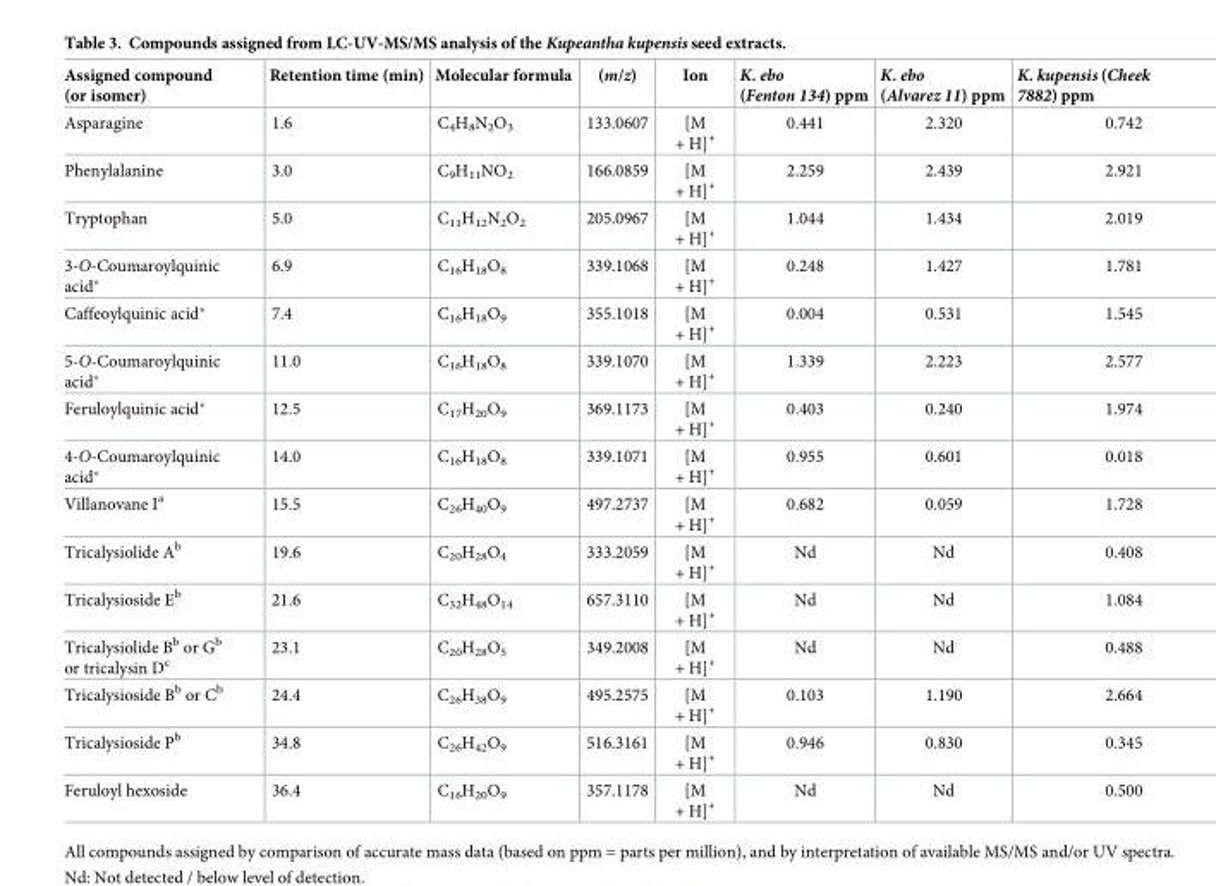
<table><thead><tr><td>Assigned compound (or isomer)</td><td>Retention time (min)</td><td>Molecular formula</td><td>(m/z)</td><td>Ion</td><td>K. ebo (Fenton 134) ppm</td><td>K. ebo (Alvarez 11) ppm</td><td>K. kupensis (Cheek 7882) ppm</td></tr></thead><tbody><tr><td>Asparagine</td><td>1.6</td><td>C<sub>4</sub>H<sub>8</sub>N<sub>2</sub>O<sub>3</sub></td><td>133.0607</td><td>[M + H]<sup>+</sup></td><td>0.441</td><td>2.320</td><td>0.742</td></tr><tr><td>Phenylalanine</td><td>3.0</td><td>C<sub>9</sub>H<sub>11</sub>NO<sub>2</sub></td><td>166.0859</td><td>[M + H]<sup>+</sup></td><td>2.259</td><td>2.439</td><td>2.921</td></tr><tr><td>Tryptophan</td><td>5.0</td><td>C<sub>11</sub>H<sub>12</sub>N<sub>2</sub>O<sub>2</sub></td><td>205.0967</td><td>[M + H]<sup>+</sup></td><td>1.044</td><td>1.434</td><td>2.019</td></tr><tr><td>3-O-Coumaroylquinic acid*</td><td>6.9</td><td>C<sub>16</sub>H<sub>18</sub>O<sub>8</sub></td><td>339.1068</td><td>[M + H]<sup>+</sup></td><td>0.248</td><td>1.427</td><td>1.781</td></tr><tr><td>Caffeoylquinic acid*</td><td>7.4</td><td>C<sub>16</sub>H<sub>18</sub>O<sub>9</sub></td><td>355.1018</td><td>[M + H]<sup>+</sup></td><td>0.004</td><td>0.531</td><td>1.545</td></tr><tr><td>5-O-Coumaroylquinic acid*</td><td>11.0</td><td>C<sub>16</sub>H<sub>18</sub>O<sub>8</sub></td><td>339.1070</td><td>[M + H]<sup>+</sup></td><td>1.339</td><td>2.223</td><td>2.577</td></tr><tr><td>Feruloylquinic acid*</td><td>12.5</td><td>C<sub>17</sub>H<sub>20</sub>O<sub>9</sub></td><td>369.1173</td><td>[M + H]<sup>+</sup></td><td>0.403</td><td>0.240</td><td>1.974</td></tr><tr><td>4-O-Coumaroylquinic acid*</td><td>14.0</td><td>C<sub>16</sub>H<sub>18</sub>O<sub>8</sub></td><td>339.1071</td><td>[M + H]<sup>+</sup></td><td>0.955</td><td>0.601</td><td>0.018</td></tr><tr><td>Villanovane I<sup>a</sup></td><td>15.5</td><td>C<sub>26</sub>H<sub>40</sub>O<sub>9</sub></td><td>497.2737</td><td>[M + H]<sup>+</sup></td><td>0.682</td><td>0.059</td><td>1.728</td></tr><tr><td>Tricalysiolide A<sup>b</sup></td><td>19.6</td><td>C<sub>20</sub>H<sub>28</sub>O<sub>4</sub></td><td>333.2059</td><td>[M + H]<sup>+</sup></td><td>Nd</td><td>Nd</td><td>0.408</td></tr><tr><td>Tricalysioside E<sup>b</sup></td><td>21.6</td><td>C<sub>32</sub>H<sub>48</sub>O<sub>14</sub></td><td>657.3110</td><td>[M + H]<sup>+</sup></td><td>Nd</td><td>Nd</td><td>1.084</td></tr><tr><td>Tricalysiolide B<sup>b</sup> or G<sup>b</sup> or tricalysin D<sup>c</sup></td><td>23.1</td><td>C<sub>20</sub>H<sub>28</sub>O<sub>5</sub></td><td>349.2008</td><td>[M + H]<sup>+</sup></td><td>Nd</td><td>Nd</td><td>0.488</td></tr><tr><td>Tricalysioside B<sup>b</sup> or C<sup>b</sup></td><td>24.4</td><td>C<sub>26</sub>H<sub>38</sub>O<sub>9</sub></td><td>495.2575</td><td>[M + H]<sup>+</sup></td><td>0.103</td><td>1.190</td><td>2.664</td></tr><tr><td>Tricalysioside P<sup>b</sup></td><td>34.8</td><td>C<sub>26</sub>H<sub>42</sub>O<sub>9</sub></td><td>516.3161</td><td>[M + H]<sup>+</sup></td><td>0.946</td><td>0.830</td><td>0.345</td></tr><tr><td>Feruloyl hexoside</td><td>36.4</td><td>C<sub>16</sub>H<sub>20</sub>O<sub>9</sub></td><td>357.1178</td><td>[M + H]<sup>+</sup></td><td>Nd</td><td>Nd</td><td>0.500</td></tr></tbody></table>